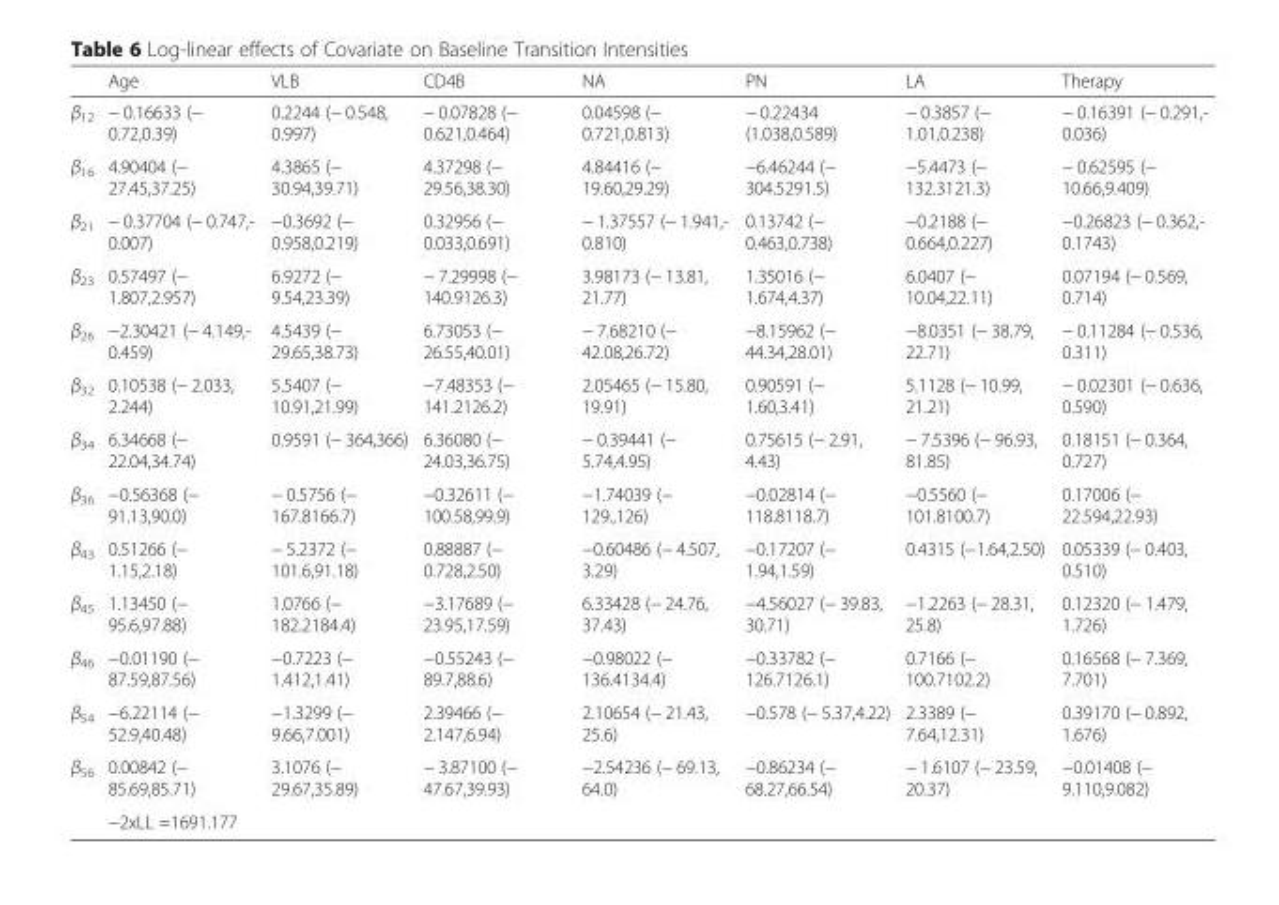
<table><thead><tr><td></td><td>Age</td><td>VLB</td><td>CD4B</td><td>NA</td><td>PN</td><td>LA</td><td>Therapy</td></tr></thead><tbody><tr><td>β<sub>12</sub></td><td>− 0.16633 (− 0.72,0.39)</td><td>0.2244 (− 0.548, 0.997)</td><td>− 0.07828 (− 0.621,0.464)</td><td>0.04598 (− 0.721,0.813)</td><td>− 0.22434 (1.038,0.589)</td><td>− 0.3857 (− 1.01,0.238)</td><td>− 0.16391 (− 0.291,- 0.036)</td></tr><tr><td>β<sub>16</sub></td><td>4.90404 (− 27.45,37.25)</td><td>4.3865 (− 30.94,39.71)</td><td>4.37298 (− 29.56,38.30)</td><td>4.84416 (− 19.60,29.29)</td><td>−6.46244 (− 304.5291.5)</td><td>−5.4473 (− 132.3121.3)</td><td>− 0.62595 (− 10.66,9.409)</td></tr><tr><td>β<sub>21</sub></td><td>− 0.37704 (− 0.747,- 0.007)</td><td>−0.3692 (− 0.958,0.219)</td><td>0.32956 (− 0.033,0.691)</td><td>− 1.37557 (− 1.941,- 0.810)</td><td>0.13742 (− 0.463,0.738)</td><td>−0.2188 (− 0.664,0.227)</td><td>−0.26823 (− 0.362,- 0.1743)</td></tr><tr><td>β<sub>23</sub></td><td>0.57497 (− 1.807,2.957)</td><td>6.9272 (− 9.54,23.39)</td><td>− 7.29998 (− 140.9126.3)</td><td>3.98173 (− 13.81, 21.77)</td><td>1.35016 (− 1.674,4.37)</td><td>6.0407 (− 10.04,22.11)</td><td>0.07194 (− 0.569, 0.714)</td></tr><tr><td>β<sub>26</sub></td><td>−2.30421 (− 4.149,- 0.459)</td><td>4.5439 (− 29.65,38.73)</td><td>6.73053 (− 26.55,40.01)</td><td>− 7.68210 (− 42.08,26.72)</td><td>−8.15962 (− 44.34,28.01)</td><td>−8.0351 (− 38.79, 22.71)</td><td>− 0.11284 (− 0.536, 0.311)</td></tr><tr><td>β<sub>32</sub></td><td>0.10538 (− 2.033, 2.244)</td><td>5.5407 (− 10.91,21.99)</td><td>−7.48353 (− 141.2126.2)</td><td>2.05465 (− 15.80, 19.91)</td><td>0.90591 (− 1.60,3.41)</td><td>5.1128 (− 10.99, 21.21)</td><td>− 0.02301 (− 0.636, 0.590)</td></tr><tr><td>β<sub>34</sub></td><td>6.34668 (− 22.04,34.74)</td><td>0.9591 (− 364,366)</td><td>6.36080 (− 24.03,36.75)</td><td>− 0.39441 (− 5.74,4.95)</td><td>0.75615 (− 2.91, 4.43)</td><td>− 7.5396 (− 96.93, 81.85)</td><td>0.18151 (− 0.364, 0.727)</td></tr><tr><td>β<sub>36</sub></td><td>−0.56368 (− 91.13,90.0)</td><td>− 0.5756 (− 167.8166.7)</td><td>−0.32611 (− 100.58,99.9)</td><td>−1.74039 (− 129.,126)</td><td>−0.02814 (− 118.8118.7)</td><td>−0.5560 (− 101.8100.7)</td><td>0.17006 (− 22.594,22.93)</td></tr><tr><td>β<sub>43</sub></td><td>0.51266 (− 1.15,2.18)</td><td>− 5.2372 (− 101.6,91.18)</td><td>0.88887 (− 0.728,2.50)</td><td>−0.60486 (− 4.507, 3.29)</td><td>−0.17207 (− 1.94,1.59)</td><td>0.4315 (−1.64,2.50)</td><td>0.05339 (− 0.403, 0.510)</td></tr><tr><td>β<sub>45</sub></td><td>1.13450 (− 95.6,97.88)</td><td>1.0766 (− 182.2184.4)</td><td>−3.17689 (− 23.95,17.59)</td><td>6.33428 (− 24.76, 37.43)</td><td>−4.56027 (− 39.83, 30.71)</td><td>−1.2263 (− 28.31, 25.8)</td><td>0.12320 (− 1.479, 1.726)</td></tr><tr><td>β<sub>46</sub></td><td>−0.01190 (− 87.59,87.56)</td><td>−0.7223 (− 1.412,1.41)</td><td>−0.55243 (− 89.7,88.6)</td><td>−0.98022 (− 136.4134.4)</td><td>−0.33782 (− 126.7126.1)</td><td>0.7166 (− 100.7102.2)</td><td>0.16568 (− 7.369, 7.701)</td></tr><tr><td>β<sub>54</sub></td><td>−6.22114 (− 52.9,40.48)</td><td>−1.3299 (− 9.66,7.001)</td><td>2.39466 (− 2.147,6.94)</td><td>2.10654 (− 21.43, 25.6)</td><td>−0.578 (− 5.37,4.22)</td><td>2.3389 (− 7.64,12.31)</td><td>0.39170 (− 0.892, 1.676)</td></tr><tr><td rowspan="2">β<sub>56</sub></td><td>0.00842 (− 85.69,85.71)</td><td>3.1076 (− 29.67,35.89)</td><td>− 3.87100 (− 47.67,39.93)</td><td>−2.54236 (− 69.13, 64.0)</td><td>−0.86234 (− 68.27,66.54)</td><td>− 1.6107 (− 23.59, 20.37)</td><td>−0.01408 (− 9.110,9.082)</td></tr><tr><td colspan="7">−2xLL =1691.177</td></tr></tbody></table>